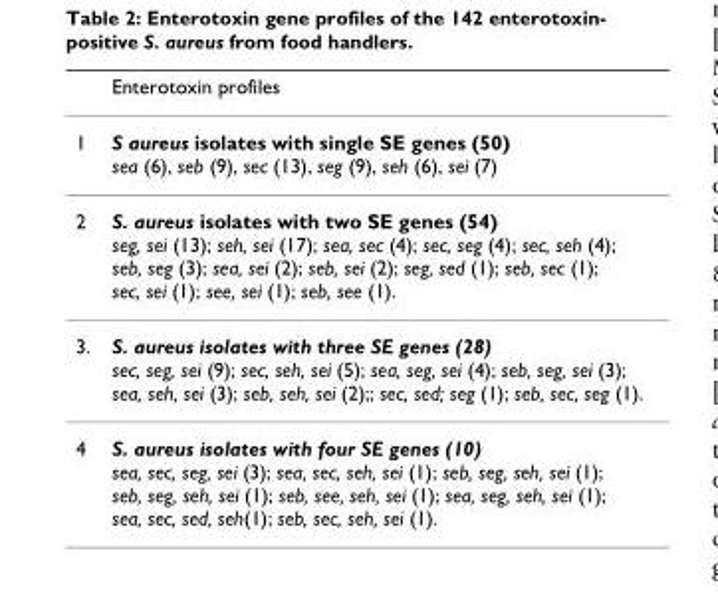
<table><thead><tr><td></td><td>Enterotoxin profiles</td></tr></thead><tbody><tr><td>1</td><td>S aureus isolates with single SE genes (50) sea (6), seb (9), sec (13), seg (9), seh (6), sei (7)</td></tr><tr><td>2</td><td>S. aureus isolates with two SE genes (54) seg, sei (13); seh, sei (17); sea, sec (4); sec, seg (4); sec, seh (4); seb, seg (3); sea, sei (2); seb, sei (2); seg, sed (1); seb, sec (1); sec, sei (1); see, sei (1); seb, see (1).</td></tr><tr><td>3.</td><td>S. aureus isolates with three SE genes (28) sec, seg, sei (9); sec, seh, sei (5); sea, seg, sei (4); seb, seg, sei (3); sea, seh, sei (3); seb, seh, sei (2);; sec, sed; seg (1); seb, sec, seg (1).</td></tr><tr><td>4</td><td>S. aureus isolates with four SE genes (10) sea, sec, seg, sei (3); sea, sec, seh, sei (1); seb, seg, seh, sei (1); seb, seg, seh, sei (1); seb, see, seh, sei (1); sea, seg, seh, sei (1); sea, sec, sed, seh(1); seb, sec, seh, sei (1).</td></tr></tbody></table>